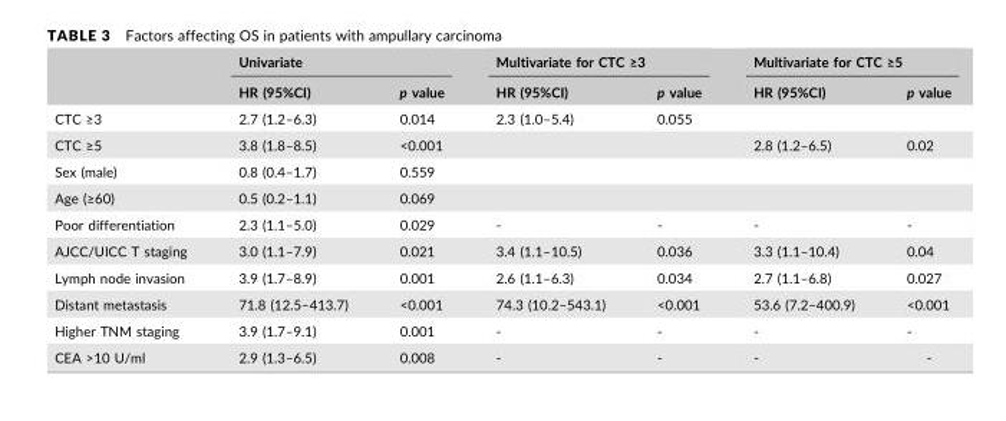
<table><thead><tr><td rowspan="2"></td><td colspan="2">Univariate</td><td colspan="2">Multivariate for CTC ≥3</td><td colspan="2">Multivariate for CTC ≥5</td></tr><tr><td>HR (95%CI)</td><td>p value</td><td>HR (95%CI)</td><td>p value</td><td>HR (95%CI)</td><td>p value</td></tr></thead><tbody><tr><td>CTC ≥3</td><td>2.7 (1.2–6.3)</td><td>0.014</td><td>2.3 (1.0–5.4)</td><td>0.055</td><td></td><td></td></tr><tr><td>CTC ≥5</td><td>3.8 (1.8–8.5)</td><td>&lt;0.001</td><td></td><td></td><td>2.8 (1.2–6.5)</td><td>0.02</td></tr><tr><td>Sex (male)</td><td>0.8 (0.4–1.7)</td><td>0.559</td><td></td><td></td><td></td><td></td></tr><tr><td>Age (≥60)</td><td>0.5 (0.2–1.1)</td><td>0.069</td><td></td><td></td><td></td><td></td></tr><tr><td>Poor differentiation</td><td>2.3 (1.1–5.0)</td><td>0.029</td><td>-</td><td>-</td><td>-</td><td>-</td></tr><tr><td>AJCC/UICC T staging</td><td>3.0 (1.1–7.9)</td><td>0.021</td><td>3.4 (1.1–10.5)</td><td>0.036</td><td>3.3 (1.1–10.4)</td><td>0.04</td></tr><tr><td>Lymph node invasion</td><td>3.9 (1.7–8.9)</td><td>0.001</td><td>2.6 (1.1–6.3)</td><td>0.034</td><td>2.7 (1.1–6.8)</td><td>0.027</td></tr><tr><td>Distant metastasis</td><td>71.8 (12.5–413.7)</td><td>&lt;0.001</td><td>74.3 (10.2–543.1)</td><td>&lt;0.001</td><td>53.6 (7.2–400.9)</td><td>&lt;0.001</td></tr><tr><td>Higher TNM staging</td><td>3.9 (1.7–9.1)</td><td>0.001</td><td>-</td><td>-</td><td>-</td><td>-</td></tr><tr><td>CEA &gt;10 U/ml</td><td>2.9 (1.3–6.5)</td><td>0.008</td><td>-</td><td>-</td><td>-</td><td>-</td></tr></tbody></table>